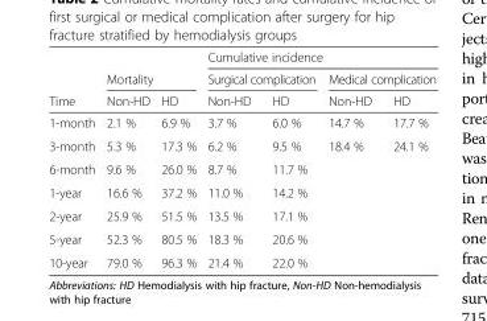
<table><thead><tr><td rowspan="3">Time</td><td></td><td></td><td colspan="4">Cumulative incidence</td></tr><tr><td colspan="2">Mortality</td><td colspan="2">Surgical complication</td><td colspan="2">Medical complication</td></tr><tr><td>Non-HD</td><td>HD</td><td>Non-HD</td><td>HD</td><td>Non-HD</td><td>HD</td></tr></thead><tbody><tr><td>1-month</td><td>2.1 %</td><td>6.9 %</td><td>3.7 %</td><td>6.0 %</td><td>14.7 %</td><td>17.7 %</td></tr><tr><td>3-month</td><td>5.3 %</td><td>17.3 %</td><td>6.2 %</td><td>9.5 %</td><td>18.4 %</td><td>24.1 %</td></tr><tr><td>6-month</td><td>9.6 %</td><td>26.0 %</td><td>8.7 %</td><td>11.7 %</td><td></td><td></td></tr><tr><td>1-year</td><td>16.6 %</td><td>37.2 %</td><td>11.0 %</td><td>14.2 %</td><td></td><td></td></tr><tr><td>2-year</td><td>25.9 %</td><td>51.5 %</td><td>13.5 %</td><td>17.1 %</td><td></td><td></td></tr><tr><td>5-year</td><td>52.3 %</td><td>80.5 %</td><td>18.3 %</td><td>20.6 %</td><td></td><td></td></tr><tr><td>10-year</td><td>79.0 %</td><td>96.3 %</td><td>21.4 %</td><td>22.0 %</td><td></td><td></td></tr></tbody></table>